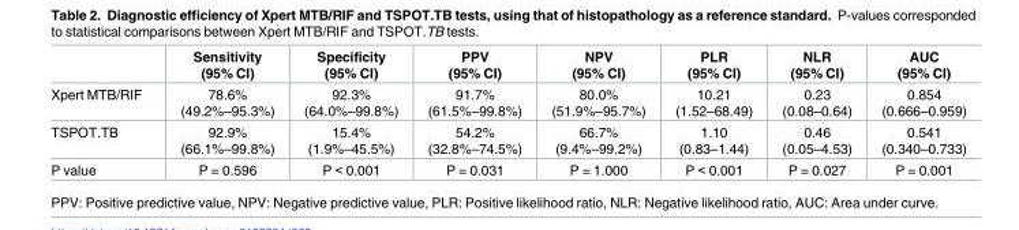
<table><thead><tr><td></td><td>Sensitivity (95% CI)</td><td>Specificity (95% CI)</td><td>PPV (95% CI)</td><td>NPV (95% CI)</td><td>PLR (95% CI)</td><td>NLR (95% CI)</td><td>AUC (95% CI)</td></tr></thead><tbody><tr><td>Xpert MTB/RIF</td><td>78.6% (49.2%–95.3%)</td><td>92.3% (64.0%–99.8%)</td><td>91.7% (61.5%–99.8%)</td><td>80.0% (51.9%–95.7%)</td><td>10.21 (1.52–68.49)</td><td>0.23 (0.08–0.64)</td><td>0.854 (0.666–0.959)</td></tr><tr><td>TSPOT.TB</td><td>92.9% (66.1%–99.8%)</td><td>15.4% (1.9%–45.5%)</td><td>54.2% (32.8%–74.5%)</td><td>66.7% (9.4%–99.2%)</td><td>1.10 (0.83–1.44)</td><td>0.46 (0.05–4.53)</td><td>0.541 (0.340–0.733)</td></tr><tr><td>P value</td><td>P = 0.596</td><td>P &lt; 0.001</td><td>P = 0.031</td><td>P = 1.000</td><td>P &lt; 0.001</td><td>P = 0.027</td><td>P = 0.001</td></tr></tbody></table>